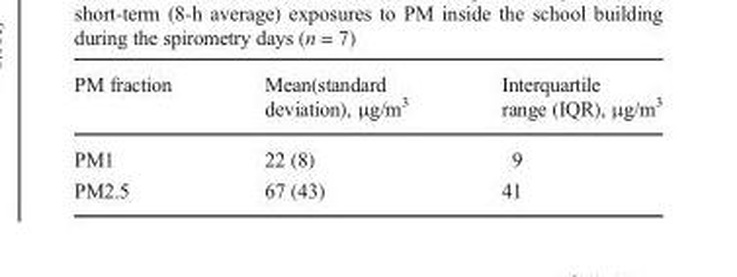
<table><thead><tr><td>PM fraction</td><td>Mean(standard deviation), μg/m<sup>3</sup></td><td>Interquartile range (IQR), μg/m<sup>3</sup></td></tr></thead><tbody><tr><td>PM1</td><td>22 (8)</td><td>9</td></tr><tr><td>PM2.5</td><td>67 (43)</td><td>41</td></tr></tbody></table>